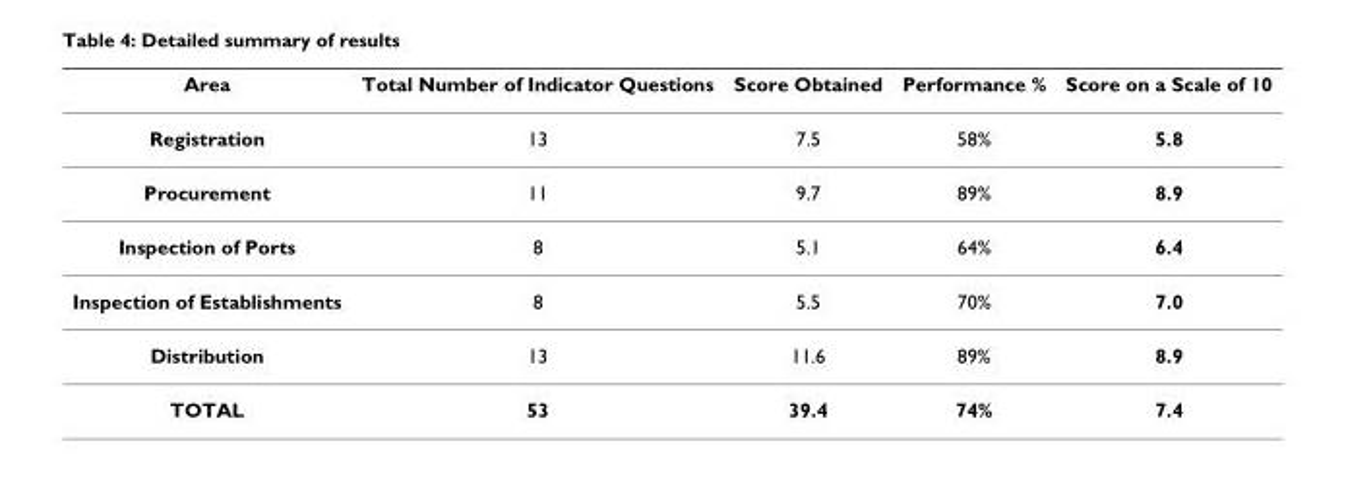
<table><thead><tr><td>Area</td><td>Total Number of Indicator Questions</td><td>Score Obtained</td><td>Performance %</td><td>Score on a Scale of 10</td></tr></thead><tbody><tr><td>Registration</td><td>13</td><td>7.5</td><td>58%</td><td>5.8</td></tr><tr><td>Procurement</td><td>11</td><td>9.7</td><td>89%</td><td>8.9</td></tr><tr><td>Inspection of Ports</td><td>8</td><td>5.1</td><td>64%</td><td>6.4</td></tr><tr><td>Inspection of Establishments</td><td>8</td><td>5.5</td><td>70%</td><td>7.0</td></tr><tr><td>Distribution</td><td>13</td><td>11.6</td><td>89%</td><td>8.9</td></tr><tr><td>TOTAL</td><td>53</td><td>39.4</td><td>74%</td><td>7.4</td></tr></tbody></table>